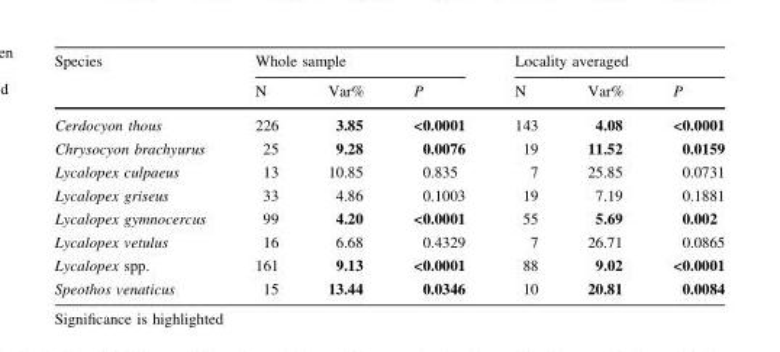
<table><thead><tr><td rowspan="2">Species</td><td colspan="3">Whole sample</td><td colspan="3">Locality averaged</td></tr><tr><td>N</td><td>Var%</td><td>P</td><td>N</td><td>Var%</td><td>P</td></tr></thead><tbody><tr><td>Cerdocyon thous</td><td>226</td><td>3.85</td><td>&lt;0.0001</td><td>143</td><td>4.08</td><td>&lt;0.0001</td></tr><tr><td>Chrysocyon brachyurus</td><td>25</td><td>9.28</td><td>0.0076</td><td>19</td><td>11.52</td><td>0.0159</td></tr><tr><td>Lycalopex culpaeus</td><td>13</td><td>10.85</td><td>0.835</td><td>7</td><td>25.85</td><td>0.0731</td></tr><tr><td>Lycalopex griseus</td><td>33</td><td>4.86</td><td>0.1003</td><td>19</td><td>7.19</td><td>0.1881</td></tr><tr><td>Lycalopex gymnocercus</td><td>99</td><td>4.20</td><td>&lt;0.0001</td><td>55</td><td>5.69</td><td>0.002</td></tr><tr><td>Lycalopex vetulus</td><td>16</td><td>6.68</td><td>0.4329</td><td>7</td><td>26.71</td><td>0.0865</td></tr><tr><td>Lycalopex spp.</td><td>161</td><td>9.13</td><td>&lt;0.0001</td><td>88</td><td>9.02</td><td>&lt;0.0001</td></tr><tr><td>Speothos venaticus</td><td>15</td><td>13.44</td><td>0.0346</td><td>10</td><td>20.81</td><td>0.0084</td></tr></tbody></table>